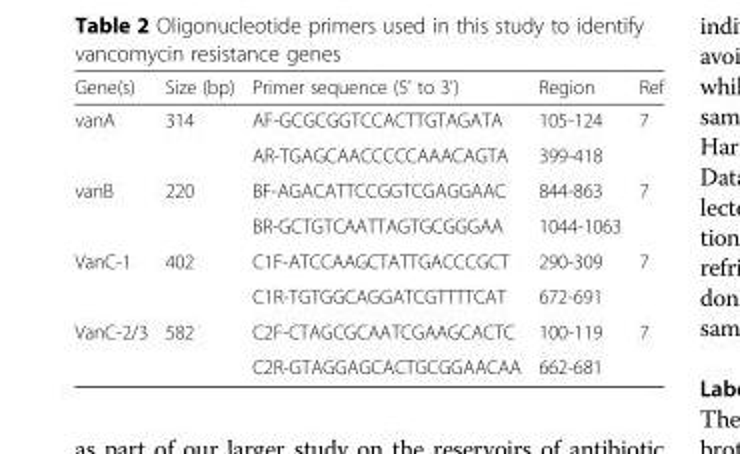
<table><thead><tr><td>Gene(s)</td><td>Size (bp)</td><td>Primer sequence (5&#x27; to 3&#x27;)</td><td>Region</td><td>Ref</td></tr></thead><tbody><tr><td rowspan="2">vanA</td><td>314</td><td>AF-GCGCGGTCCACTTGTAGATA</td><td>105-124</td><td>7</td></tr><tr><td></td><td>AR-TGAGCAACCCCCAAACAGTA</td><td>399-418</td><td></td></tr><tr><td rowspan="2">vanB</td><td>220</td><td>BF-AGACATTCCGGTCGAGGAAC</td><td>844-863</td><td>7</td></tr><tr><td></td><td>BR-GCTGTCAATTAGTGCGGGAA</td><td>1044-1063</td><td></td></tr><tr><td rowspan="2">VanC-1</td><td>402</td><td>C1F-ATCCAAGCTATTGACCCGCT</td><td>290-309</td><td>7</td></tr><tr><td></td><td>C1R-TGTGGCAGGATCGTTTTCAT</td><td>672-691</td><td></td></tr><tr><td rowspan="2">VanC-2/3</td><td>582</td><td>C2F-CTAGCGCAATCGAAGCACTC</td><td>100-119</td><td>7</td></tr><tr><td></td><td>C2R-GTAGGAGCACTGCGGAACAA</td><td>662-681</td><td></td></tr></tbody></table>